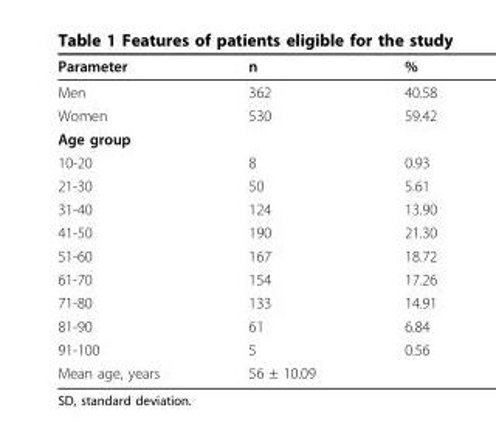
<table><thead><tr><td>Parameter</td><td>n</td><td>%</td></tr></thead><tbody><tr><td>Men</td><td>362</td><td>40.58</td></tr><tr><td>Women</td><td>530</td><td>59.42</td></tr><tr><td colspan="3">Age group</td></tr><tr><td>10-20</td><td>8</td><td>0.93</td></tr><tr><td>21-30</td><td>50</td><td>5.61</td></tr><tr><td>31-40</td><td>124</td><td>13.90</td></tr><tr><td>41-50</td><td>190</td><td>21.30</td></tr><tr><td>51-60</td><td>167</td><td>18.72</td></tr><tr><td>61-70</td><td>154</td><td>17.26</td></tr><tr><td>71-80</td><td>133</td><td>14.91</td></tr><tr><td>81-90</td><td>61</td><td>6.84</td></tr><tr><td>91-100</td><td>5</td><td>0.56</td></tr><tr><td>Mean age, years</td><td>56 ± 10.09</td><td></td></tr></tbody></table>